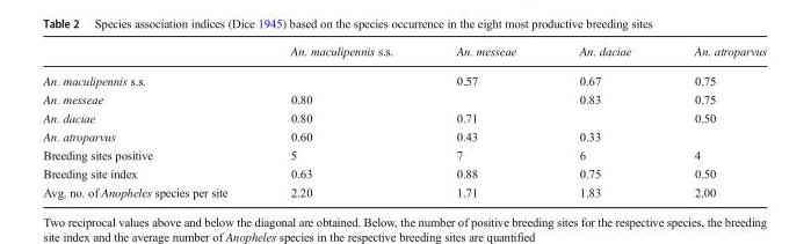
<table><thead><tr><td></td><td>An. maculipennis s.s.</td><td>An. messeae</td><td>An. daciae</td><td>An. atroparvus</td></tr></thead><tbody><tr><td>An. maculipennis s.s.</td><td></td><td>0.57</td><td>0.67</td><td>0.75</td></tr><tr><td>An. messeae</td><td>0.80</td><td></td><td>0.83</td><td>0.75</td></tr><tr><td>An. daciae</td><td>0.80</td><td>0.71</td><td></td><td>0.50</td></tr><tr><td>An. atroparvus</td><td>0.60</td><td>0.43</td><td>0.33</td><td></td></tr><tr><td>Breeding sites positive</td><td>5</td><td>7</td><td>6</td><td>4</td></tr><tr><td>Breeding site index</td><td>0.63</td><td>0.88</td><td>0.75</td><td>0.50</td></tr><tr><td>Avg. no. of Anopheles species per site</td><td>2.20</td><td>1.71</td><td>1.83</td><td>2.00</td></tr></tbody></table>